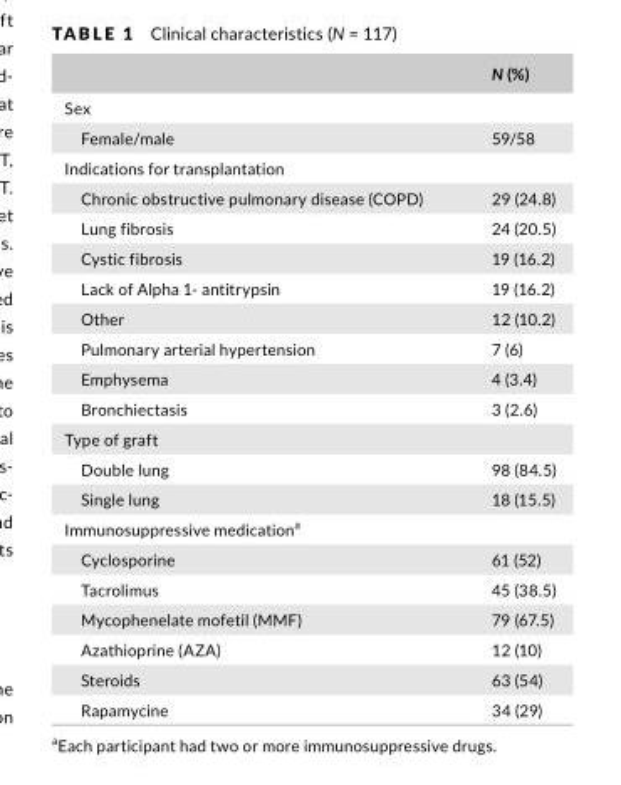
<table><thead><tr><td></td><td>N (%)</td></tr></thead><tbody><tr><td colspan="2">Sex</td></tr><tr><td>Female/male</td><td>59/58</td></tr><tr><td colspan="2">Indications for transplantation</td></tr><tr><td>Chronic obstructive pulmonary disease (COPD)</td><td>29 (24.8)</td></tr><tr><td>Lung fibrosis</td><td>24 (20.5)</td></tr><tr><td>Cystic fibrosis</td><td>19 (16.2)</td></tr><tr><td>Lack of Alpha 1‐ antitrypsin</td><td>19 (16.2)</td></tr><tr><td>Other</td><td>12 (10.2)</td></tr><tr><td>Pulmonary arterial hypertension</td><td>7 (6)</td></tr><tr><td>Emphysema</td><td>4 (3.4)</td></tr><tr><td>Bronchiectasis</td><td>3 (2.6)</td></tr><tr><td colspan="2">Type of graft</td></tr><tr><td>Double lung</td><td>98 (84.5)</td></tr><tr><td>Single lung</td><td>18 (15.5)</td></tr><tr><td colspan="2">Immunosuppressive medication<sup>a</sup></td></tr><tr><td>Cyclosporine</td><td>61 (52)</td></tr><tr><td>Tacrolimus</td><td>45 (38.5)</td></tr><tr><td>Mycophenelate mofetil (MMF)</td><td>79 (67.5)</td></tr><tr><td>Azathioprine (AZA)</td><td>12 (10)</td></tr><tr><td>Steroids</td><td>63 (54)</td></tr><tr><td>Rapamycine</td><td>34 (29)</td></tr></tbody></table>